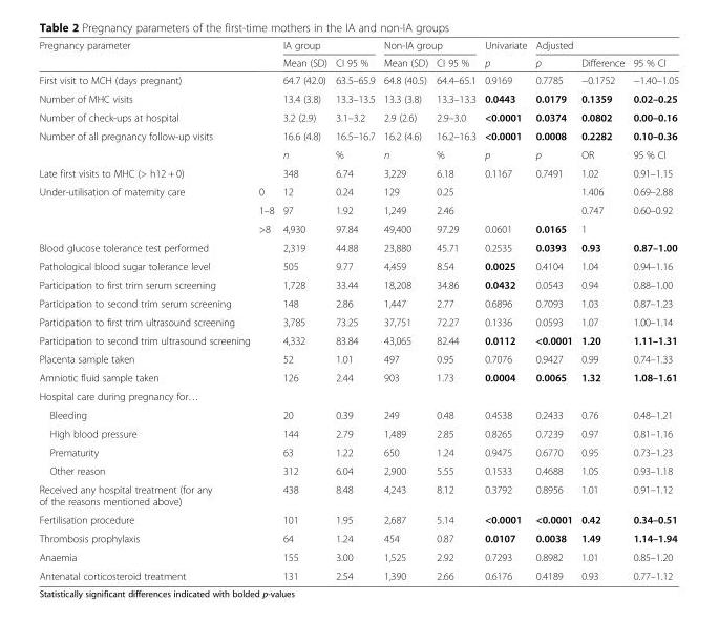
<table><thead><tr><td rowspan="2">Pregnancy parameter</td><td rowspan="2"></td><td colspan="2">IA group</td><td colspan="2">Non-IA group</td><td rowspan="2">Univariate p</td><td colspan="3">Adjusted</td></tr><tr><td>Mean (SD)</td><td>CI 95 %</td><td>Mean (SD)</td><td>CI 95 %</td><td>p</td><td>Difference</td><td>95 % CI</td></tr></thead><tbody><tr><td>First visit to MCH (days pregnant)</td><td></td><td>64.7 (42.0)</td><td>63.5–65.9</td><td>64.8 (40.5)</td><td>64.4–65.1</td><td>0.9169</td><td>0.7785</td><td>−0.1752</td><td>−1.40–1.05</td></tr><tr><td>Number of MHC visits</td><td></td><td>13.4 (3.8)</td><td>13.3–13.5</td><td>13.3 (3.8)</td><td>13.3–13.3</td><td>0.0443</td><td>0.0179</td><td>0.1359</td><td>0.02–0.25</td></tr><tr><td>Number of check-ups at hospital</td><td></td><td>3.2 (2.9)</td><td>3.1–3.2</td><td>2.9 (2.6)</td><td>2.9–3.0</td><td>&lt;0.0001</td><td>0.0374</td><td>0.0802</td><td>0.00–0.16</td></tr><tr><td rowspan="2">Number of all pregnancy follow-up visits</td><td></td><td>16.6 (4.8)</td><td>16.5–16.7</td><td>16.2 (4.6)</td><td>16.2–16.3</td><td>&lt;0.0001</td><td>0.0008</td><td>0.2282</td><td>0.10–0.36</td></tr><tr><td></td><td>n</td><td>%</td><td>n</td><td>%</td><td>p</td><td>p</td><td>OR</td><td>95 % CI</td></tr><tr><td>Late first visits to MHC (&gt; h12 + 0)</td><td></td><td>348</td><td>6.74</td><td>3,229</td><td>6.18</td><td>0.1167</td><td>0.7491</td><td>1.02</td><td>0.91–1.15</td></tr><tr><td rowspan="3">Under-utilisation of maternity care</td><td>0</td><td>12</td><td>0.24</td><td>129</td><td>0.25</td><td></td><td></td><td>1.406</td><td>0.69–2.88</td></tr><tr><td>1–8</td><td>97</td><td>1.92</td><td>1,249</td><td>2.46</td><td></td><td></td><td>0.747</td><td>0.60–0.92</td></tr><tr><td>&gt;8</td><td>4,930</td><td>97.84</td><td>49,400</td><td>97.29</td><td>0.0601</td><td>0.0165</td><td>1</td><td></td></tr><tr><td>Blood glucose tolerance test performed</td><td></td><td>2,319</td><td>44.88</td><td>23,880</td><td>45.71</td><td>0.2535</td><td>0.0393</td><td>0.93</td><td>0.87–1.00</td></tr><tr><td>Pathological blood sugar tolerance level</td><td></td><td>505</td><td>9.77</td><td>4,459</td><td>8.54</td><td>0.0025</td><td>0.4104</td><td>1.04</td><td>0.94–1.16</td></tr><tr><td>Participation to first trim serum screening</td><td></td><td>1,728</td><td>33.44</td><td>18,208</td><td>34.86</td><td>0.0432</td><td>0.0543</td><td>0.94</td><td>0.88–1.00</td></tr><tr><td>Participation to second trim serum screening</td><td></td><td>148</td><td>2.86</td><td>1,447</td><td>2.77</td><td>0.6896</td><td>0.7093</td><td>1.03</td><td>0.87–1.23</td></tr><tr><td>Participation to first trim ultrasound screening</td><td></td><td>3,785</td><td>73.25</td><td>37,751</td><td>72.27</td><td>0.1336</td><td>0.0593</td><td>1.07</td><td>1.00–1.14</td></tr><tr><td>Participation to second trim ultrasound screening</td><td></td><td>4,332</td><td>83.84</td><td>43,065</td><td>82.44</td><td>0.0112</td><td>&lt;0.0001</td><td>1.20</td><td>1.11–1.31</td></tr><tr><td>Placenta sample taken</td><td></td><td>52</td><td>1.01</td><td>497</td><td>0.95</td><td>0.7076</td><td>0.9427</td><td>0.99</td><td>0.74–1.33</td></tr><tr><td>Amniotic fluid sample taken</td><td></td><td>126</td><td>2.44</td><td>903</td><td>1.73</td><td>0.0004</td><td>0.0065</td><td>1.32</td><td>1.08–1.61</td></tr><tr><td colspan="10">Hospital care during pregnancy for…</td></tr><tr><td>Bleeding</td><td></td><td>20</td><td>0.39</td><td>249</td><td>0.48</td><td>0.4538</td><td>0.2433</td><td>0.76</td><td>0.48–1.21</td></tr><tr><td>High blood pressure</td><td></td><td>144</td><td>2.79</td><td>1,489</td><td>2.85</td><td>0.8265</td><td>0.7239</td><td>0.97</td><td>0.81–1.16</td></tr><tr><td>Prematurity</td><td></td><td>63</td><td>1.22</td><td>650</td><td>1.24</td><td>0.9475</td><td>0.6770</td><td>0.95</td><td>0.73–1.23</td></tr><tr><td>Other reason</td><td></td><td>312</td><td>6.04</td><td>2,900</td><td>5.55</td><td>0.1533</td><td>0.4688</td><td>1.05</td><td>0.93–1.18</td></tr><tr><td>Received any hospital treatment (for any of the reasons mentioned above)</td><td></td><td>438</td><td>8.48</td><td>4,243</td><td>8.12</td><td>0.3792</td><td>0.8956</td><td>1.01</td><td>0.91–1.12</td></tr><tr><td>Fertilisation procedure</td><td></td><td>101</td><td>1.95</td><td>2,687</td><td>5.14</td><td>&lt;0.0001</td><td>&lt;0.0001</td><td>0.42</td><td>0.34–0.51</td></tr><tr><td>Thrombosis prophylaxis</td><td></td><td>64</td><td>1.24</td><td>454</td><td>0.87</td><td>0.0107</td><td>0.0038</td><td>1.49</td><td>1.14–1.94</td></tr><tr><td>Anaemia</td><td></td><td>155</td><td>3.00</td><td>1,525</td><td>2.92</td><td>0.7293</td><td>0.8982</td><td>1.01</td><td>0.85–1.20</td></tr><tr><td>Antenatal corticosteroid treatment</td><td></td><td>131</td><td>2.54</td><td>1,390</td><td>2.66</td><td>0.6176</td><td>0.4189</td><td>0.93</td><td>0.77–1.12</td></tr></tbody></table>